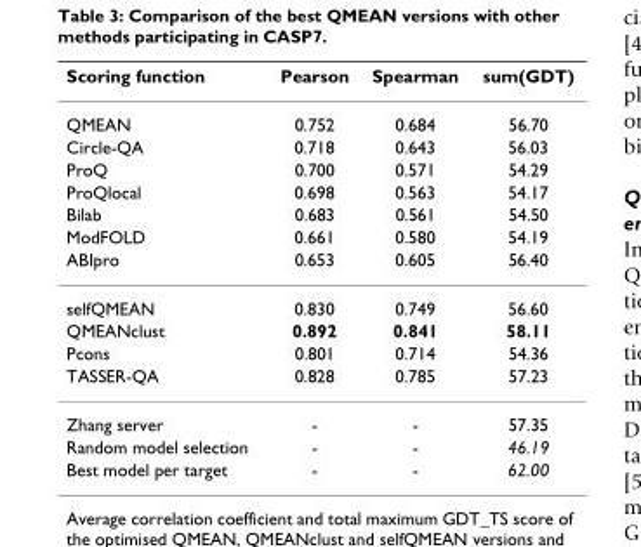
<table><thead><tr><td>Scoring function</td><td>Pearson</td><td>Spearman</td><td>sum(GDT)</td></tr></thead><tbody><tr><td>QMEAN</td><td>0.752</td><td>0.684</td><td>56.70</td></tr><tr><td>Circle-QA</td><td>0.718</td><td>0.643</td><td>56.03</td></tr><tr><td>ProQ</td><td>0.700</td><td>0.571</td><td>54.29</td></tr><tr><td>ProQlocal</td><td>0.698</td><td>0.563</td><td>54.17</td></tr><tr><td>Bilab</td><td>0.683</td><td>0.561</td><td>54.50</td></tr><tr><td>ModFOLD</td><td>0.661</td><td>0.580</td><td>54.19</td></tr><tr><td>ABIpro</td><td>0.653</td><td>0.605</td><td>56.40</td></tr><tr><td>selfQMEAN</td><td>0.830</td><td>0.749</td><td>56.60</td></tr><tr><td>QMEANclust</td><td>0.892</td><td>0.841</td><td>58.11</td></tr><tr><td>Pcons</td><td>0.801</td><td>0.714</td><td>54.36</td></tr><tr><td>TASSER-QA</td><td>0.828</td><td>0.785</td><td>57.23</td></tr><tr><td>Zhang server</td><td>-</td><td>-</td><td>57.35</td></tr><tr><td>Random model selection</td><td>-</td><td>-</td><td>46.19</td></tr><tr><td>Best model per target</td><td>-</td><td>-</td><td>62.00</td></tr></tbody></table>